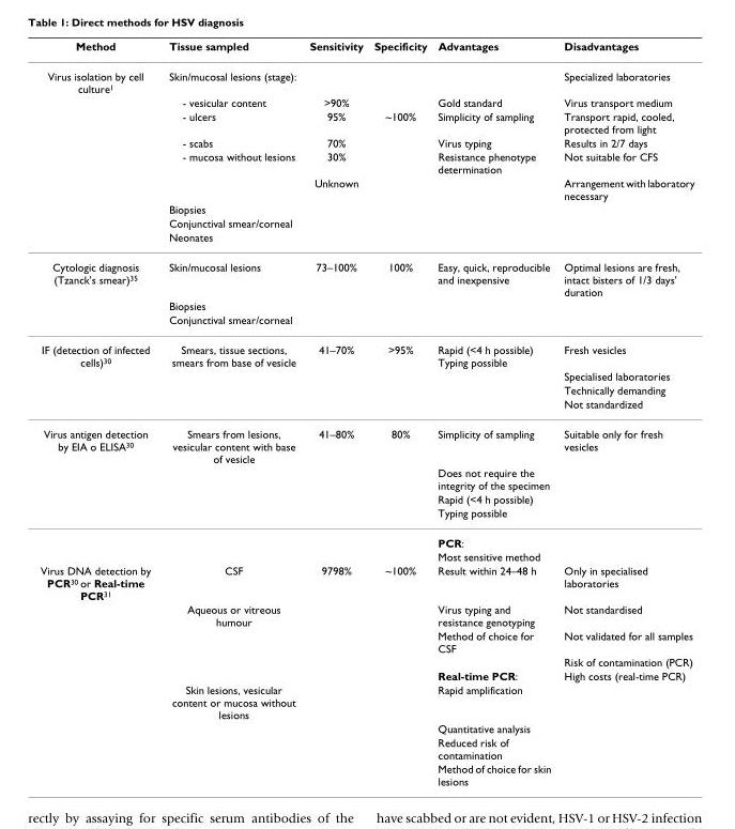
<table><thead><tr><td>Method</td><td>Tissue sampled</td><td>Sensitivity</td><td>Specificity</td><td>Advantages</td><td>Disadvantages</td></tr></thead><tbody><tr><td rowspan="9">Virus isolation by cell culture<sup>1</sup></td><td>Skin/mucosal lesions (stage):</td><td></td><td></td><td></td><td>Specialized laboratories</td></tr><tr><td>- vesicular content</td><td>&gt;90%</td><td></td><td>Gold standard</td><td>Virus transport medium</td></tr><tr><td>- ulcers</td><td>95%</td><td>~100%</td><td>Simplicity of sampling</td><td>Transport rapid, cooled, protected from light</td></tr><tr><td>- scabs</td><td>70%</td><td></td><td>Virus typing</td><td>Results in 2/7 days</td></tr><tr><td>- mucosa without lesions</td><td>30%</td><td></td><td>Resistance phenotype determination</td><td>Not suitable for CFS</td></tr><tr><td></td><td>Unknown</td><td></td><td></td><td>Arrangement with laboratory necessary</td></tr><tr><td>Biopsies</td><td></td><td></td><td></td><td></td></tr><tr><td>Conjunctival smear/corneal</td><td></td><td></td><td></td><td></td></tr><tr><td>Neonates</td><td></td><td></td><td></td><td></td></tr><tr><td rowspan="3">Cytologic diagnosis (Tzanck&#x27;s smear)<sup>35</sup></td><td>Skin/mucosal lesions</td><td>73–100%</td><td>100%</td><td>Easy, quick, reproducible and inexpensive</td><td>Optimal lesions are fresh, intact bisters of 1/3 days&#x27; duration</td></tr><tr><td>Biopsies</td><td></td><td></td><td></td><td></td></tr><tr><td>Conjunctival smear/corneal</td><td></td><td></td><td></td><td></td></tr><tr><td rowspan="4">IF (detection of infected cells)<sup>30</sup></td><td>Smears, tissue sections, smears from base of vesicle</td><td>41–70%</td><td>&gt;95%</td><td>Rapid (&lt;4 h possible) Typing possible</td><td>Fresh vesicles</td></tr><tr><td></td><td></td><td></td><td></td><td>Specialised laboratories</td></tr><tr><td></td><td></td><td></td><td></td><td>Technically demanding</td></tr><tr><td></td><td></td><td></td><td></td><td>Not standardized</td></tr><tr><td rowspan="6">Virus antigen detection by EIA o ELISA<sup>30</sup></td><td>Smears from lesions, vesicular content with base of vesicle</td><td>41–80%</td><td>80%</td><td>Simplicity of sampling</td><td>Suitable only for fresh vesicles</td></tr><tr><td></td><td></td><td></td><td>Does not require the integrity of the specimen</td><td></td></tr><tr><td></td><td></td><td></td><td>Rapid (&lt;4 h possible)</td><td></td></tr><tr><td></td><td></td><td></td><td>Typing possible</td><td></td></tr><tr><td></td><td></td><td></td><td>PCR:</td><td></td></tr><tr><td></td><td></td><td></td><td>Most sensitive method</td><td></td></tr><tr><td rowspan="9">Virus DNA detection by PCR<sup>30</sup> or Real-time PCR<sup>31</sup></td><td>CSF</td><td>9798%</td><td>~100%</td><td>Result within 24–48 h</td><td>Only in specialised laboratories</td></tr><tr><td>Aqueous or vitreous humour</td><td></td><td></td><td>Virus typing and resistance genotyping</td><td>Not standardised</td></tr><tr><td></td><td></td><td></td><td>Method of choice for CSF</td><td>Not validated for all samples</td></tr><tr><td></td><td></td><td></td><td></td><td>Risk of contamination (PCR)</td></tr><tr><td></td><td></td><td></td><td>Real-time PCR:</td><td>High costs (real-time PCR)</td></tr><tr><td>Skin lesions, vesicular content or mucosa without lesions</td><td></td><td></td><td>Rapid amplification</td><td></td></tr><tr><td></td><td></td><td></td><td>Quantitative analysis</td><td></td></tr><tr><td></td><td></td><td></td><td>Reduced risk of contamination</td><td></td></tr><tr><td></td><td></td><td></td><td>Method of choice for skin lesions</td><td></td></tr></tbody></table>